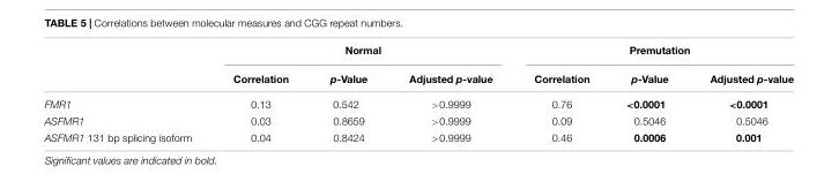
<table><thead><tr><td rowspan="2"></td><td colspan="3">Normal</td><td colspan="3">Premutation</td></tr><tr><td>Correlation</td><td>p-Value</td><td>Adjusted p-value</td><td>Correlation</td><td>p-Value</td><td>Adjusted p-value</td></tr></thead><tbody><tr><td>FMR1</td><td>0.13</td><td>0.542</td><td>&gt;0.9999</td><td>0.76</td><td>&lt;0.0001</td><td>&lt;0.0001</td></tr><tr><td>ASFMR1</td><td>0.03</td><td>0.8659</td><td>&gt;0.9999</td><td>0.09</td><td>0.5046</td><td>0.5046</td></tr><tr><td>ASFMR1 131 bp splicing isoform</td><td>0.04</td><td>0.8424</td><td>&gt;0.9999</td><td>0.46</td><td>0.0006</td><td>0.001</td></tr></tbody></table>